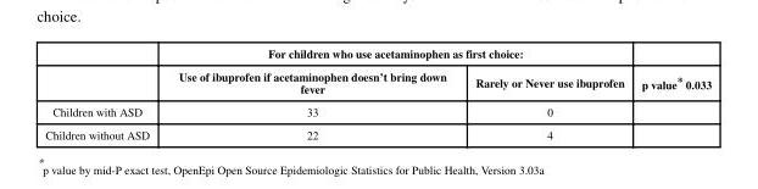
<table><thead><tr><td rowspan="2"></td><td colspan="2">For children who use acetaminophen as first choice:</td><td rowspan="2">p value* 0.033</td></tr><tr><td>Use of ibuprofen if acetaminophen doesn’t bring down fever</td><td>Rarely or Never use ibuprofen</td></tr></thead><tbody><tr><td>Children with ASD</td><td>33</td><td>0</td><td></td></tr><tr><td>Children without ASD</td><td>22</td><td>4</td><td></td></tr></tbody></table>